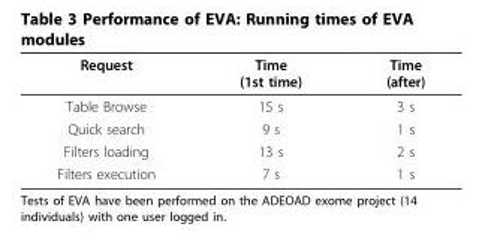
<table><thead><tr><td>Request</td><td>Time (1st time)</td><td>Time (after)</td></tr></thead><tbody><tr><td>Table Browse</td><td>15 s</td><td>3 s</td></tr><tr><td>Quick search</td><td>9 s</td><td>1 s</td></tr><tr><td>Filters loading</td><td>13 s</td><td>2 s</td></tr><tr><td>Filters execution</td><td>7 s</td><td>1 s</td></tr></tbody></table>